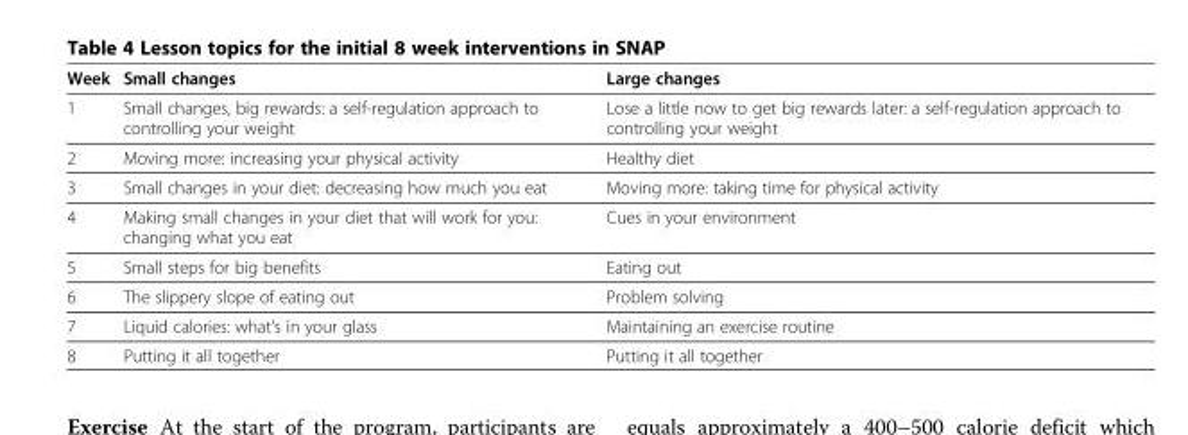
<table><thead><tr><td>Week</td><td>Small changes</td><td>Large changes</td></tr></thead><tbody><tr><td>1</td><td>Small changes, big rewards: a self-regulation approach to controlling your weight</td><td>Lose a little now to get big rewards later: a self-regulation approach to controlling your weight</td></tr><tr><td>2</td><td>Moving more: increasing your physical activity</td><td>Healthy diet</td></tr><tr><td>3</td><td>Small changes in your diet: decreasing how much you eat</td><td>Moving more: taking time for physical activity</td></tr><tr><td>4</td><td>Making small changes in your diet that will work for you: changing what you eat</td><td>Cues in your environment</td></tr><tr><td>5</td><td>Small steps for big benefits</td><td>Eating out</td></tr><tr><td>6</td><td>The slippery slope of eating out</td><td>Problem solving</td></tr><tr><td>7</td><td>Liquid calories: what’s in your glass</td><td>Maintaining an exercise routine</td></tr><tr><td>8</td><td>Putting it all together</td><td>Putting it all together</td></tr></tbody></table>